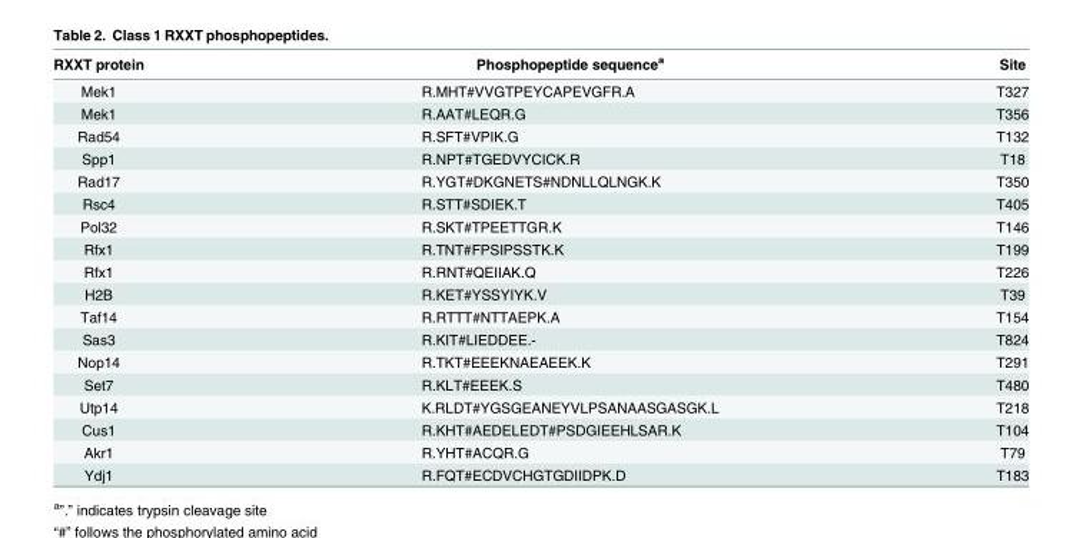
<table><thead><tr><td>RXXT protein</td><td>Phosphopeptide sequence<sup>a</sup></td><td>Site</td></tr></thead><tbody><tr><td>Mek1</td><td>R.MHT#VVGTPEYCAPEVGFR.A</td><td>T327</td></tr><tr><td>Mek1</td><td>R.AAT#LEQR.G</td><td>T356</td></tr><tr><td>Rad54</td><td>R.SFT#VPIK.G</td><td>T132</td></tr><tr><td>Spp1</td><td>R.NPT#TGEDVYCICK.R</td><td>T18</td></tr><tr><td>Rad17</td><td>R.YGT#DKGNETS#NDNLLQLNGK.K</td><td>T350</td></tr><tr><td>Rsc4</td><td>R.STT#SDIEK.T</td><td>T405</td></tr><tr><td>Pol32</td><td>R.SKT#TPEETTGR.K</td><td>T146</td></tr><tr><td>Rfx1</td><td>R.TNT#FPSIPSSTK.K</td><td>T199</td></tr><tr><td>Rfx1</td><td>R.RNT#QEIIAK.Q</td><td>T226</td></tr><tr><td>H2B</td><td>R.KET#YSSYIYK.V</td><td>T39</td></tr><tr><td>Taf14</td><td>R.RTTT#NTTAEPK.A</td><td>T154</td></tr><tr><td>Sas3</td><td>R.KIT#LIEDDEE.-</td><td>T824</td></tr><tr><td>Nop14</td><td>R.TKT#EEEKNAEAEEK.K</td><td>T291</td></tr><tr><td>Set7</td><td>R.KLT#EEEK.S</td><td>T480</td></tr><tr><td>Utp14</td><td>K.RLDT#YGSGEANEYVLPSANAASGASGK.L</td><td>T218</td></tr><tr><td>Cus1</td><td>R.KHT#AEDELEDT#PSDGIEEHLSAR.K</td><td>T104</td></tr><tr><td>Akr1</td><td>R.YHT#ACQR.G</td><td>T79</td></tr><tr><td>Ydj1</td><td>R.FQT#ECDVCHGTGDIIDPK.D</td><td>T183</td></tr></tbody></table>